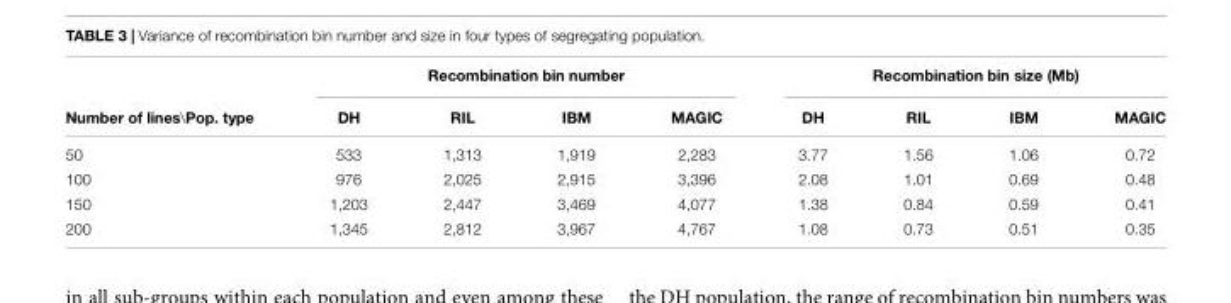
<table><thead><tr><td rowspan="2">Number of lines\Pop. type</td><td colspan="4">Recombination bin number</td><td colspan="4">Recombination bin size (Mb)</td></tr><tr><td>DH</td><td>RIL</td><td>IBM</td><td>MAGIC</td><td>DH</td><td>RIL</td><td>IBM</td><td>MAGIC</td></tr></thead><tbody><tr><td>50</td><td>533</td><td>1,313</td><td>1,919</td><td>2,283</td><td>3.77</td><td>1.56</td><td>1.06</td><td>0.72</td></tr><tr><td>100</td><td>976</td><td>2,025</td><td>2,915</td><td>3,396</td><td>2.08</td><td>1.01</td><td>0.69</td><td>0.48</td></tr><tr><td>150</td><td>1,203</td><td>2,447</td><td>3,469</td><td>4,077</td><td>1.38</td><td>0.84</td><td>0.59</td><td>0.41</td></tr><tr><td>200</td><td>1,345</td><td>2,812</td><td>3,967</td><td>4,767</td><td>1.08</td><td>0.73</td><td>0.51</td><td>0.35</td></tr></tbody></table>